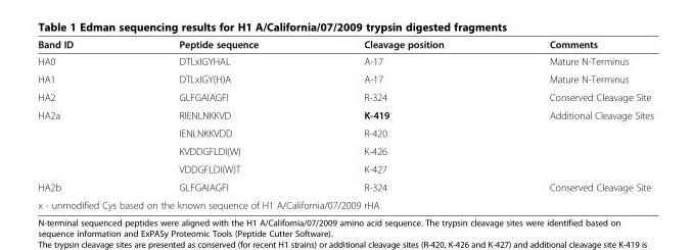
<table><thead><tr><td>Band ID</td><td>Peptide sequence</td><td>Cleavage position</td><td>Comments</td></tr></thead><tbody><tr><td>HA0</td><td>DTLxIGYHAL</td><td>A-17</td><td>Mature N-Terminus</td></tr><tr><td>HA1</td><td>DTLxIGY(H)A</td><td>A-17</td><td>Mature N-Terminus</td></tr><tr><td>HA2</td><td>GLFGAIAGFI</td><td>R-324</td><td>Conserved Cleavage Site</td></tr><tr><td rowspan="4">HA2a</td><td>RIENLNKKVD</td><td>K-419</td><td rowspan="4">Additional Cleavage Sites</td></tr><tr><td>IENLNKKVDD</td><td>R-420</td></tr><tr><td>KVDDGFLDI(W)</td><td>K-426</td></tr><tr><td>VDDGFLDI(W)T</td><td>K-427</td></tr><tr><td>HA2b</td><td>GLFGAIAGFI</td><td>R-324</td><td>Conserved Cleavage Site</td></tr><tr><td colspan="4">x - unmodified Cys based on the known sequence of H1 A/California/07/2009 rHA</td></tr></tbody></table>